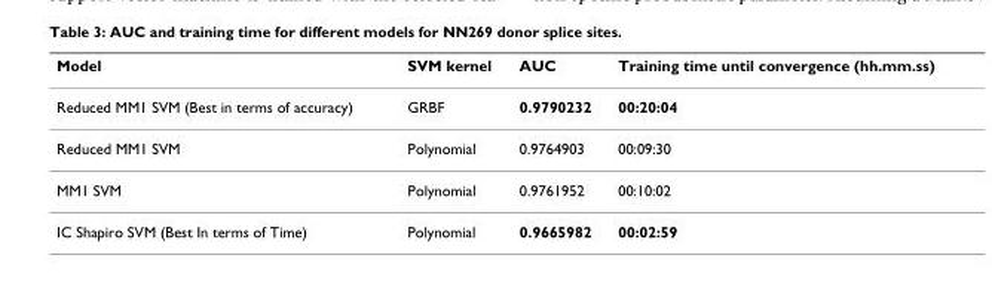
<table><thead><tr><td>Model</td><td>SVM kernel</td><td>AUC</td><td>Training time until convergence (hh.mm.ss)</td></tr></thead><tbody><tr><td>Reduced MM1 SVM (Best in terms of accuracy)</td><td>GRBF</td><td>0.9790232</td><td>00:20:04</td></tr><tr><td>Reduced MM1 SVM</td><td>Polynomial</td><td>0.9764903</td><td>00:09:30</td></tr><tr><td>MM1 SVM</td><td>Polynomial</td><td>0.9761952</td><td>00:10:02</td></tr><tr><td>IC Shapiro SVM (Best In terms of Time)</td><td>Polynomial</td><td>0.9665982</td><td>00:02:59</td></tr></tbody></table>